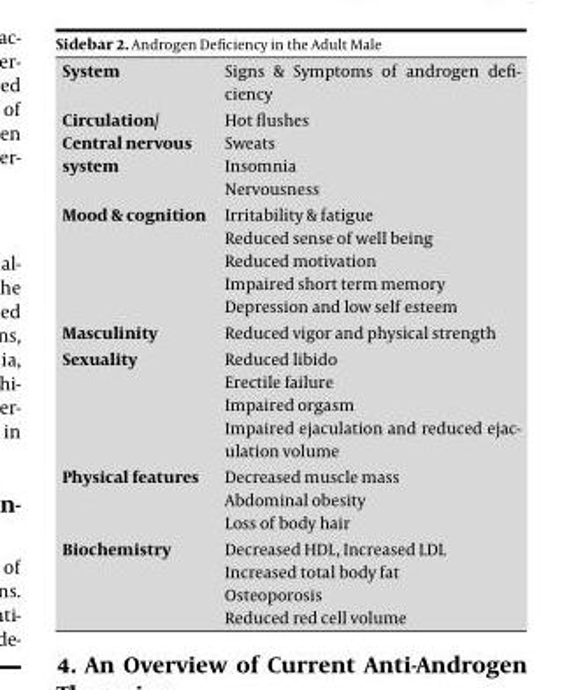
<table><tbody><tr><td>System</td><td>Signs &amp; Symptoms of androgen defi- ciency</td></tr><tr><td rowspan="4">Circulation/ Central nervous system</td><td>Hot flushes</td></tr><tr><td>Sweats</td></tr><tr><td>Insomnia</td></tr><tr><td>Nervousness</td></tr><tr><td rowspan="5">Mood &amp; cognition</td><td>Irritability &amp; fatigue</td></tr><tr><td>Reduced sense of well being</td></tr><tr><td>Reduced motivation</td></tr><tr><td>Impaired short term memory</td></tr><tr><td>Depression and low self esteem</td></tr><tr><td>Masculinity</td><td>Reduced vigor and physical strength</td></tr><tr><td rowspan="4">Sexuality</td><td>Reduced libido</td></tr><tr><td>Erectile failure</td></tr><tr><td>Impaired orgasm</td></tr><tr><td>Impaired ejaculation and reduced ejac- ulation volume</td></tr><tr><td rowspan="3">Physical features</td><td>Decreased muscle mass</td></tr><tr><td>Abdominal obesity</td></tr><tr><td>Loss of body hair</td></tr><tr><td rowspan="4">Biochemistry</td><td>Decreased HDL, Increased LDL</td></tr><tr><td>Increased total body fat</td></tr><tr><td>Osteoporosis</td></tr><tr><td>Reduced red cell volume</td></tr></tbody></table>